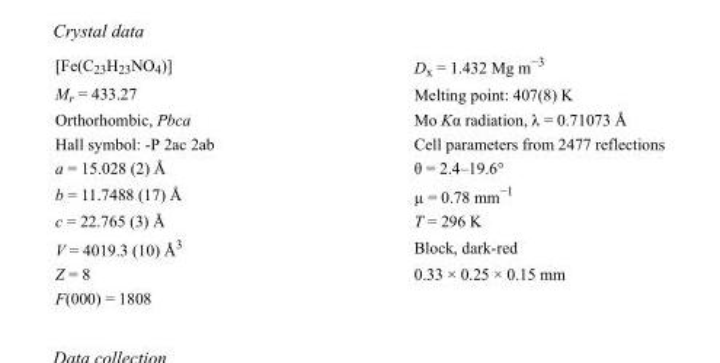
<table><tbody><tr><td>[Fe(C<sub>23</sub>H<sub>23</sub>NO<sub>4</sub>)]</td><td>D<sub>x</sub> = 1.432 Mg m<sup>−3</sup></td></tr><tr><td>M<sub>r</sub> = 433.27</td><td>Melting point: 407(8) K</td></tr><tr><td>Orthorhombic, Pbca</td><td>Mo Kα radiation, λ = 0.71073 Å</td></tr><tr><td>Hall symbol: -P 2ac 2ab</td><td>Cell parameters from 2477 reflections</td></tr><tr><td>a = 15.028 (2) Å</td><td>θ = 2.4–19.6°</td></tr><tr><td>b = 11.7488 (17) Å</td><td>µ = 0.78 mm<sup>−1</sup></td></tr><tr><td>c = 22.765 (3) Å</td><td>T = 296 K</td></tr><tr><td>V = 4019.3 (10) Å<sup>3</sup></td><td>Block, dark-red</td></tr><tr><td>Z = 8</td><td>0.33 × 0.25 × 0.15 mm</td></tr><tr><td>F(000) = 1808</td><td></td></tr></tbody></table>